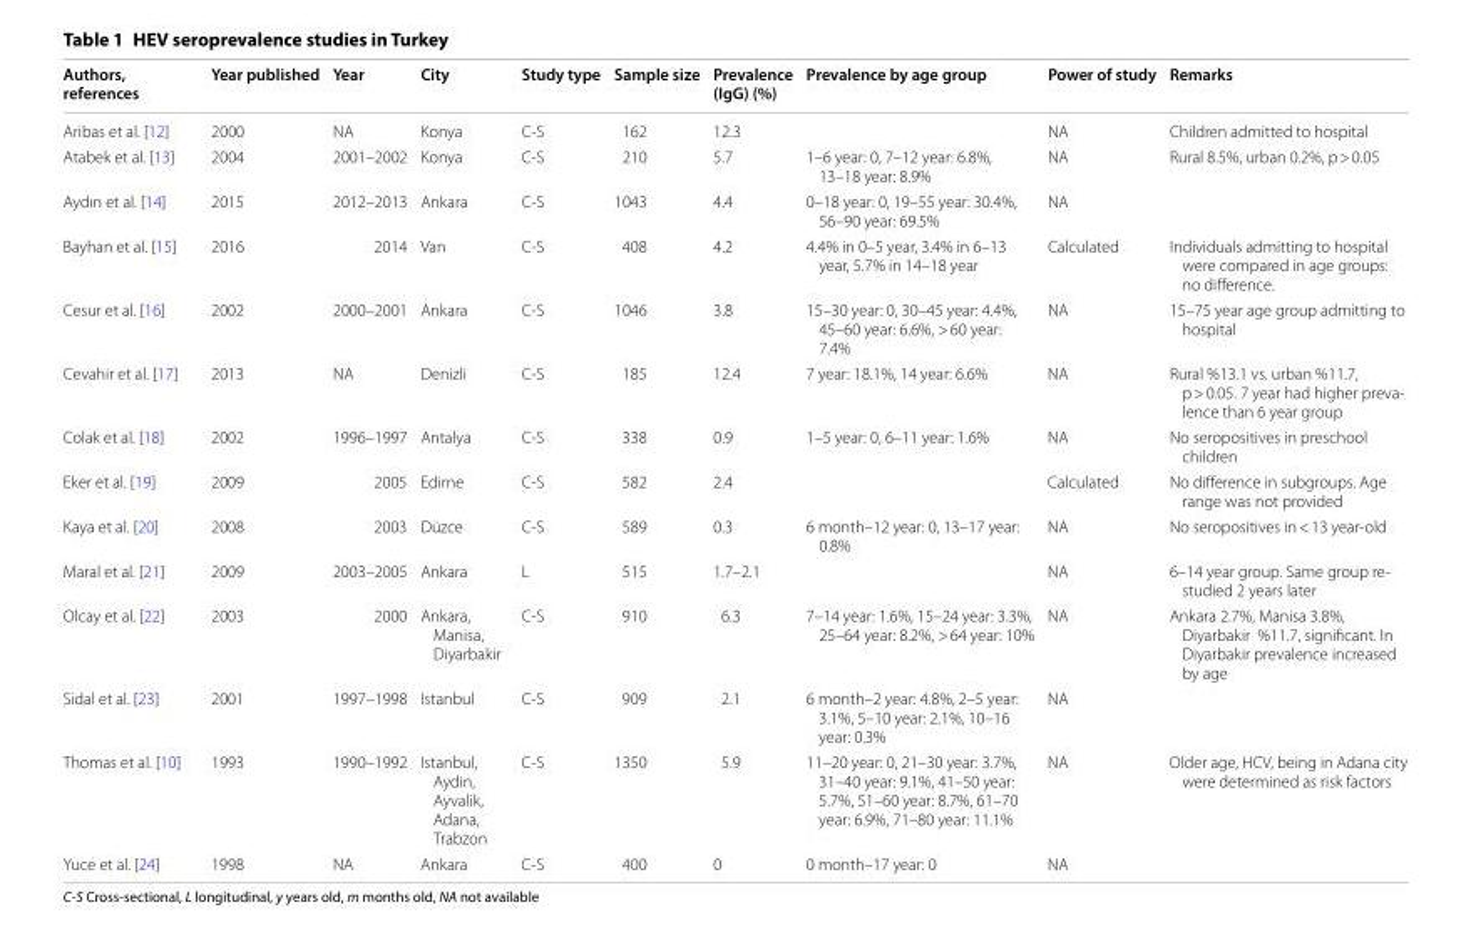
<table><thead><tr><td>Authors, references</td><td>Year published</td><td>Year</td><td>City</td><td>Study type</td><td>Sample size</td><td>Prevalence (IgG) (%)</td><td>Prevalence by age group</td><td>Power of study</td><td>Remarks</td></tr></thead><tbody><tr><td>Aribas et al. [12]</td><td>2000</td><td>NA</td><td>Konya</td><td>C-S</td><td>162</td><td>12.3</td><td></td><td>NA</td><td>Children admitted to hospital</td></tr><tr><td>Atabek et al. [13]</td><td>2004</td><td>2001–2002</td><td>Konya</td><td>C-S</td><td>210</td><td>5.7</td><td>1–6 year: 0, 7–12 year: 6.8%, 13–18 year: 8.9%</td><td>NA</td><td>Rural 8.5%, urban 0.2%, p &gt; 0.05</td></tr><tr><td>Aydın et al. [14]</td><td>2015</td><td>2012–2013</td><td>Ankara</td><td>C-S</td><td>1043</td><td>4.4</td><td>0–18 year: 0, 19–55 year: 30.4%, 56–90 year: 69.5%</td><td>NA</td><td></td></tr><tr><td>Bayhan et al. [15]</td><td>2016</td><td>2014</td><td>Van</td><td>C-S</td><td>408</td><td>4.2</td><td>4.4% in 0–5 year, 3.4% in 6–13 year, 5.7% in 14–18 year</td><td>Calculated</td><td>Individuals admitting to hospital were compared in age groups: no difference.</td></tr><tr><td>Cesur et al. [16]</td><td>2002</td><td>2000–2001</td><td>Ankara</td><td>C-S</td><td>1046</td><td>3.8</td><td>15–30 year: 0, 30–45 year: 4.4%, 45–60 year: 6.6%, &gt; 60 year: 7.4%</td><td>NA</td><td>15–75 year age group admitting to hospital</td></tr><tr><td>Cevahir et al. [17]</td><td>2013</td><td>NA</td><td>Denizli</td><td>C-S</td><td>185</td><td>12.4</td><td>7 year: 18.1%, 14 year: 6.6%</td><td>NA</td><td>Rural %13.1 vs. urban %11.7, p &gt; 0.05. 7 year had higher preva- lence than 6 year group</td></tr><tr><td>Colak et al. [18]</td><td>2002</td><td>1996–1997</td><td>Antalya</td><td>C-S</td><td>338</td><td>0.9</td><td>1–5 year: 0, 6–11 year: 1.6%</td><td>NA</td><td>No seropositives in preschool children</td></tr><tr><td>Eker et al. [19]</td><td>2009</td><td>2005</td><td>Edirne</td><td>C-S</td><td>582</td><td>2.4</td><td></td><td>Calculated</td><td>No difference in subgroups. Age range was not provided</td></tr><tr><td>Kaya et al. [20]</td><td>2008</td><td>2003</td><td>Düzce</td><td>C-S</td><td>589</td><td>0.3</td><td>6 month–12 year: 0, 13–17 year: 0.8%</td><td>NA</td><td>No seropositives in &lt; 13 year-old</td></tr><tr><td>Maral et al. [21]</td><td>2009</td><td>2003–2005</td><td>Ankara</td><td>L</td><td>515</td><td>1.7–2.1</td><td></td><td>NA</td><td>6–14 year group. Same group re- studied 2 years later</td></tr><tr><td>Olcay et al. [22]</td><td>2003</td><td>2000</td><td>Ankara, Manisa, Diyarbakir</td><td>C-S</td><td>910</td><td>6.3</td><td>7–14 year: 1.6%, 15–24 year: 3.3%, 25–64 year: 8.2%, &gt; 64 year: 10%</td><td>NA</td><td>Ankara 2.7%, Manisa 3.8%, Diyarbakir %11.7, significant. In Diyarbakir prevalence increased by age</td></tr><tr><td>Sidal et al. [23]</td><td>2001</td><td>1997–1998</td><td>Istanbul</td><td>C-S</td><td>909</td><td>2.1</td><td>6 month–2 year: 4.8%, 2–5 year: 3.1%, 5–10 year: 2.1%, 10–16 year: 0.3%</td><td>NA</td><td></td></tr><tr><td>Thomas et al. [10]</td><td>1993</td><td>1990–1992</td><td>Istanbul, Aydin, Ayvalik, Adana, Trabzon</td><td>C-S</td><td>1350</td><td>5.9</td><td>11–20 year: 0, 21–30 year: 3.7%, 31–40 year: 9.1%, 41–50 year: 5.7%, 51–60 year: 8.7%, 61–70 year: 6.9%, 71–80 year: 11.1%</td><td>NA</td><td>Older age, HCV, being in Adana city were determined as risk factors</td></tr><tr><td>Yuce et al. [24]</td><td>1998</td><td>NA</td><td>Ankara</td><td>C-S</td><td>400</td><td>0</td><td>0 month–17 year: 0</td><td>NA</td><td></td></tr></tbody></table>